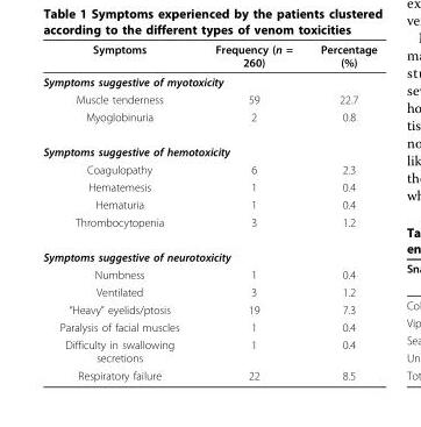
<table><thead><tr><td>Symptoms</td><td>Frequency (n = 260)</td><td>Percentage (%)</td></tr></thead><tbody><tr><td colspan="3">Symptoms suggestive of myotoxicity</td></tr><tr><td>Muscle tenderness</td><td>59</td><td>22.7</td></tr><tr><td>Myoglobinuria</td><td>2</td><td>0.8</td></tr><tr><td colspan="3">Symptoms suggestive of hemotoxicity</td></tr><tr><td>Coagulopathy</td><td>6</td><td>2.3</td></tr><tr><td>Hematemesis</td><td>1</td><td>0.4</td></tr><tr><td>Hematuria</td><td>1</td><td>0.4</td></tr><tr><td>Thrombocytopenia</td><td>3</td><td>1.2</td></tr><tr><td colspan="3">Symptoms suggestive of neurotoxicity</td></tr><tr><td>Numbness</td><td>1</td><td>0.4</td></tr><tr><td>Ventilated</td><td>3</td><td>1.2</td></tr><tr><td>“Heavy” eyelids/ptosis</td><td>19</td><td>7.3</td></tr><tr><td>Paralysis of facial muscles</td><td>1</td><td>0.4</td></tr><tr><td>Difficulty in swallowing secretions</td><td>1</td><td>0.4</td></tr><tr><td>Respiratory failure</td><td>22</td><td>8.5</td></tr></tbody></table>